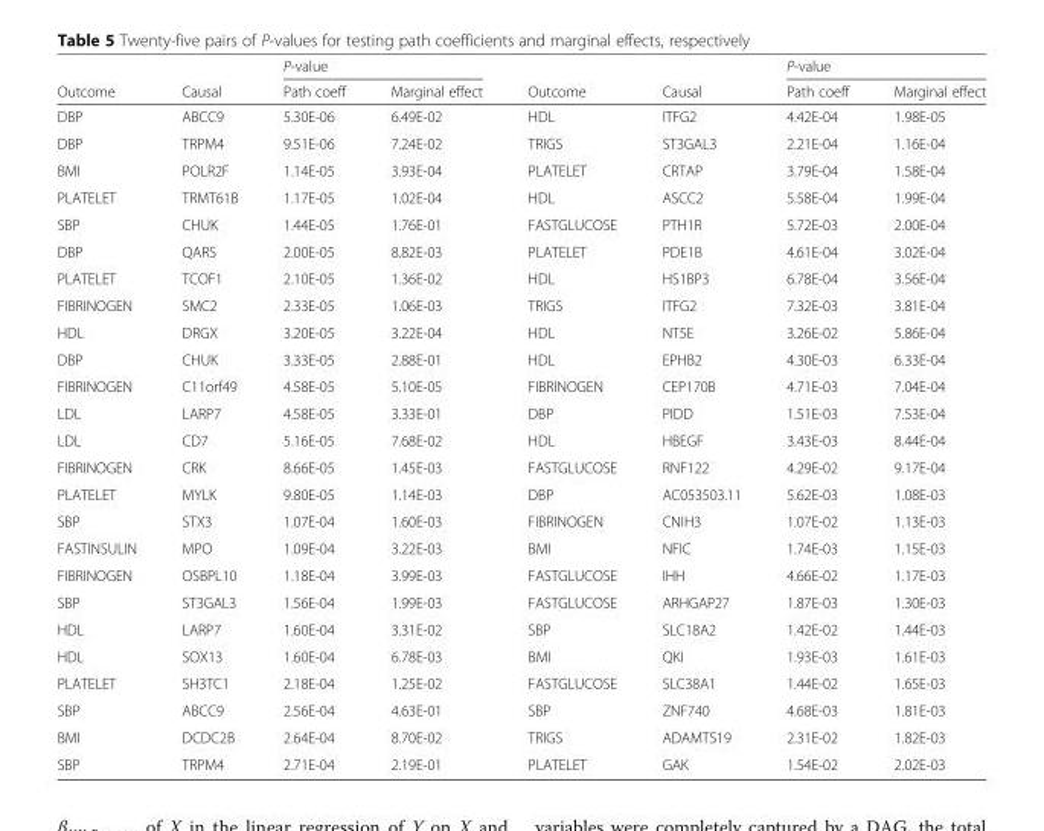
<table><thead><tr><td rowspan="2">Outcome</td><td rowspan="2">Causal</td><td colspan="2">P-value</td><td rowspan="2">Outcome</td><td rowspan="2">Causal</td><td colspan="2">P-value</td></tr><tr><td>Path coeff</td><td>Marginal effect</td><td>Path coeff</td><td>Marginal effect</td></tr></thead><tbody><tr><td>DBP</td><td>ABCC9</td><td>5.30E-06</td><td>6.49E-02</td><td>HDL</td><td>ITFG2</td><td>4.42E-04</td><td>1.98E-05</td></tr><tr><td>DBP</td><td>TRPM4</td><td>9.51E-06</td><td>7.24E-02</td><td>TRIGS</td><td>ST3GAL3</td><td>2.21E-04</td><td>1.16E-04</td></tr><tr><td>BMI</td><td>POLR2F</td><td>1.14E-05</td><td>3.93E-04</td><td>PLATELET</td><td>CRTAP</td><td>3.79E-04</td><td>1.58E-04</td></tr><tr><td>PLATELET</td><td>TRMT61B</td><td>1.17E-05</td><td>1.02E-04</td><td>HDL</td><td>ASCC2</td><td>5.58E-04</td><td>1.99E-04</td></tr><tr><td>SBP</td><td>CHUK</td><td>1.44E-05</td><td>1.76E-01</td><td>FASTGLUCOSE</td><td>PTH1R</td><td>5.72E-03</td><td>2.00E-04</td></tr><tr><td>DBP</td><td>QARS</td><td>2.00E-05</td><td>8.82E-03</td><td>PLATELET</td><td>PDE1B</td><td>4.61E-04</td><td>3.02E-04</td></tr><tr><td>PLATELET</td><td>TCOF1</td><td>2.10E-05</td><td>1.36E-02</td><td>HDL</td><td>HS1BP3</td><td>6.78E-04</td><td>3.56E-04</td></tr><tr><td>FIBRINOGEN</td><td>SMC2</td><td>2.33E-05</td><td>1.06E-03</td><td>TRIGS</td><td>ITFG2</td><td>7.32E-03</td><td>3.81E-04</td></tr><tr><td>HDL</td><td>DRGX</td><td>3.20E-05</td><td>3.22E-04</td><td>HDL</td><td>NT5E</td><td>3.26E-02</td><td>5.86E-04</td></tr><tr><td>DBP</td><td>CHUK</td><td>3.33E-05</td><td>2.88E-01</td><td>HDL</td><td>EPHB2</td><td>4.30E-03</td><td>6.33E-04</td></tr><tr><td>FIBRINOGEN</td><td>C11orf49</td><td>4.58E-05</td><td>5.10E-05</td><td>FIBRINOGEN</td><td>CEP170B</td><td>4.71E-03</td><td>7.04E-04</td></tr><tr><td>LDL</td><td>LARP7</td><td>4.58E-05</td><td>3.33E-01</td><td>DBP</td><td>PIDD</td><td>1.51E-03</td><td>7.53E-04</td></tr><tr><td>LDL</td><td>CD7</td><td>5.16E-05</td><td>7.68E-02</td><td>HDL</td><td>HBEGF</td><td>3.43E-03</td><td>8.44E-04</td></tr><tr><td>FIBRINOGEN</td><td>CRK</td><td>8.66E-05</td><td>1.45E-03</td><td>FASTGLUCOSE</td><td>RNF122</td><td>4.29E-02</td><td>9.17E-04</td></tr><tr><td>PLATELET</td><td>MYLK</td><td>9.80E-05</td><td>1.14E-03</td><td>DBP</td><td>AC053503.11</td><td>5.62E-03</td><td>1.08E-03</td></tr><tr><td>SBP</td><td>STX3</td><td>1.07E-04</td><td>1.60E-03</td><td>FIBRINOGEN</td><td>CNIH3</td><td>1.07E-02</td><td>1.13E-03</td></tr><tr><td>FASTINSULIN</td><td>MPO</td><td>1.09E-04</td><td>3.22E-03</td><td>BMI</td><td>NFIC</td><td>1.74E-03</td><td>1.15E-03</td></tr><tr><td>FIBRINOGEN</td><td>OSBPL10</td><td>1.18E-04</td><td>3.99E-03</td><td>FASTGLUCOSE</td><td>IHH</td><td>4.66E-02</td><td>1.17E-03</td></tr><tr><td>SBP</td><td>ST3GAL3</td><td>1.56E-04</td><td>1.99E-03</td><td>FASTGLUCOSE</td><td>ARHGAP27</td><td>1.87E-03</td><td>1.30E-03</td></tr><tr><td>HDL</td><td>LARP7</td><td>1.60E-04</td><td>3.31E-02</td><td>SBP</td><td>SLC18A2</td><td>1.42E-02</td><td>1.44E-03</td></tr><tr><td>HDL</td><td>SOX13</td><td>1.60E-04</td><td>6.78E-03</td><td>BMI</td><td>QKI</td><td>1.93E-03</td><td>1.61E-03</td></tr><tr><td>PLATELET</td><td>SH3TC1</td><td>2.18E-04</td><td>1.25E-02</td><td>FASTGLUCOSE</td><td>SLC38A1</td><td>1.44E-02</td><td>1.65E-03</td></tr><tr><td>SBP</td><td>ABCC9</td><td>2.56E-04</td><td>4.63E-01</td><td>SBP</td><td>ZNF740</td><td>4.68E-03</td><td>1.81E-03</td></tr><tr><td>BMI</td><td>DCDC2B</td><td>2.64E-04</td><td>8.70E-02</td><td>TRIGS</td><td>ADAMTS19</td><td>2.31E-02</td><td>1.82E-03</td></tr><tr><td>SBP</td><td>TRPM4</td><td>2.71E-04</td><td>2.19E-01</td><td>PLATELET</td><td>GAK</td><td>1.54E-02</td><td>2.02E-03</td></tr></tbody></table>